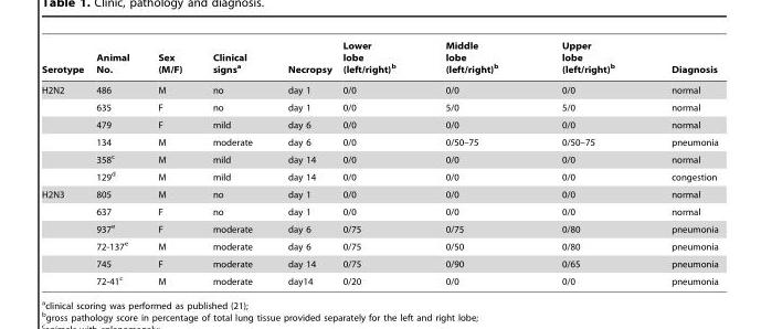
<table><thead><tr><td>Serotype</td><td>Animal No.</td><td>Sex (M/F)</td><td>Clinical signs<sup>a</sup></td><td>Necropsy</td><td>Lower lobe (left/right)<sup>b</sup></td><td>Middle lobe (left/right)<sup>b</sup></td><td>Upper lobe (left/right)<sup>b</sup></td><td>Diagnosis</td></tr></thead><tbody><tr><td rowspan="6">H2N2</td><td>486</td><td>M</td><td>no</td><td>day 1</td><td>0/0</td><td>0/0</td><td>0/0</td><td>normal</td></tr><tr><td>635</td><td>F</td><td>no</td><td>day 1</td><td>0/0</td><td>5/0</td><td>5/0</td><td>normal</td></tr><tr><td>479</td><td>F</td><td>mild</td><td>day 6</td><td>0/0</td><td>0/0</td><td>0/0</td><td>normal</td></tr><tr><td>134</td><td>M</td><td>moderate</td><td>day 6</td><td>0/0</td><td>0/50–75</td><td>0/50–75</td><td>pneumonia</td></tr><tr><td>358<sup>c</sup></td><td>M</td><td>mild</td><td>day 14</td><td>0/0</td><td>0/0</td><td>0/0</td><td>normal</td></tr><tr><td>129<sup>d</sup></td><td>M</td><td>mild</td><td>day 14</td><td>0/0</td><td>0/0</td><td>0/0</td><td>congestion</td></tr><tr><td rowspan="6">H2N3</td><td>805</td><td>M</td><td>no</td><td>day 1</td><td>0/0</td><td>0/0</td><td>0/0</td><td>normal</td></tr><tr><td>637</td><td>F</td><td>no</td><td>day 1</td><td>0/0</td><td>0/0</td><td>0/0</td><td>normal</td></tr><tr><td>937<sup>e</sup></td><td>F</td><td>moderate</td><td>day 6</td><td>0/75</td><td>0/75</td><td>0/80</td><td>pneumonia</td></tr><tr><td>72-137<sup>e</sup></td><td>M</td><td>moderate</td><td>day 6</td><td>0/75</td><td>0/50</td><td>0/80</td><td>pneumonia</td></tr><tr><td>745</td><td>F</td><td>moderate</td><td>day 14</td><td>0/75</td><td>0/90</td><td>0/65</td><td>pneumonia</td></tr><tr><td>72-41<sup>c</sup></td><td>M</td><td>moderate</td><td>day14</td><td>0/20</td><td>0/0</td><td>0/0</td><td>pneumonia</td></tr></tbody></table>